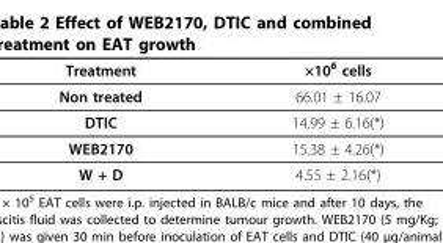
<table><thead><tr><td>Treatment</td><td>×10<sup>6</sup> cells</td></tr></thead><tbody><tr><td>Non treated</td><td>66.01 ± 16.07</td></tr><tr><td>DTIC</td><td>14.99 ± 6.16(*)</td></tr><tr><td>WEB2170</td><td>15.38 ± 4.26(*)</td></tr><tr><td>W + D</td><td>4.55 ± 2.16(*)</td></tr></tbody></table>